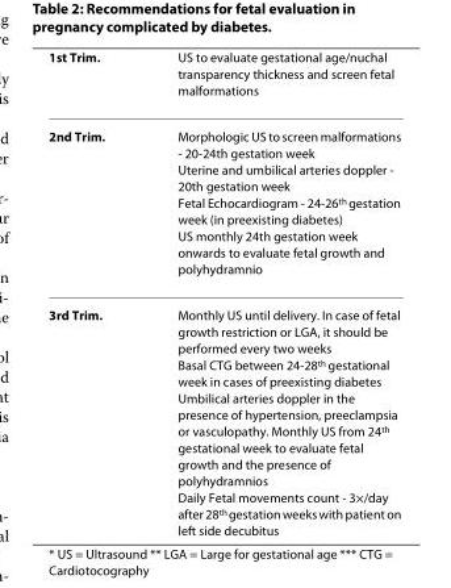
<table><thead><tr><td>1st Trim.</td><td>US to evaluate gestational age/nuchal transparency thickness and screen fetal malformations</td></tr></thead><tbody><tr><td>2nd Trim.</td><td>Morphologic US to screen malformations - 20-24th gestation week Uterine and umbilical arteries doppler - 20th gestation week Fetal Echocardiogram - 24-26<sup>th</sup> gestation week (in preexisting diabetes) US monthly 24th gestation week onwards to evaluate fetal growth and polyhydramnio</td></tr><tr><td>3rd Trim.</td><td>Monthly US until delivery. In case of fetal growth restriction or LGA, it should be performed every two weeks Basal CTG between 24-28<sup>th</sup> gestational week in cases of preexisting diabetes Umbilical arteries doppler in the presence of hypertension, preeclampsia or vasculopathy. Monthly US from 24<sup>th</sup> gestational week to evaluate fetal growth and the presence of polyhydramnios Daily Fetal movements count - 3×/day after 28<sup>th</sup> gestation weeks with patient on left side decubitus</td></tr></tbody></table>